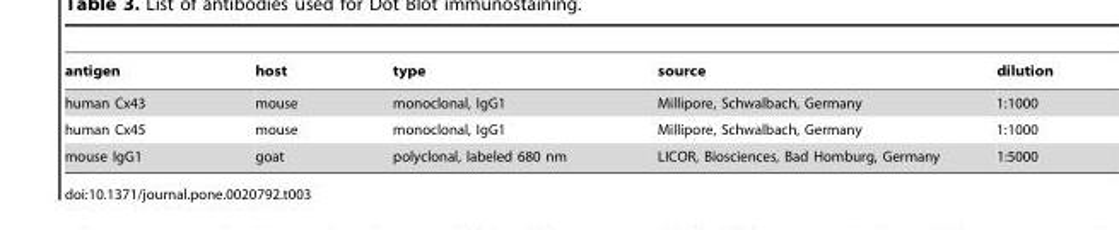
<table><thead><tr><td>antigen</td><td>host</td><td>type</td><td>source</td><td>dilution</td></tr></thead><tbody><tr><td>human Cx43</td><td>mouse</td><td>monoclonal, IgG1</td><td>Millipore, Schwalbach, Germany</td><td>1:1000</td></tr><tr><td>human Cx45</td><td>mouse</td><td>monoclonal, IgG1</td><td>Millipore, Schwalbach, Germany</td><td>1:1000</td></tr><tr><td>mouse IgG1</td><td>goat</td><td>polyclonal, labeled 680 nm</td><td>LICOR, Biosciences, Bad Homburg, Germany</td><td>1:5000</td></tr></tbody></table>